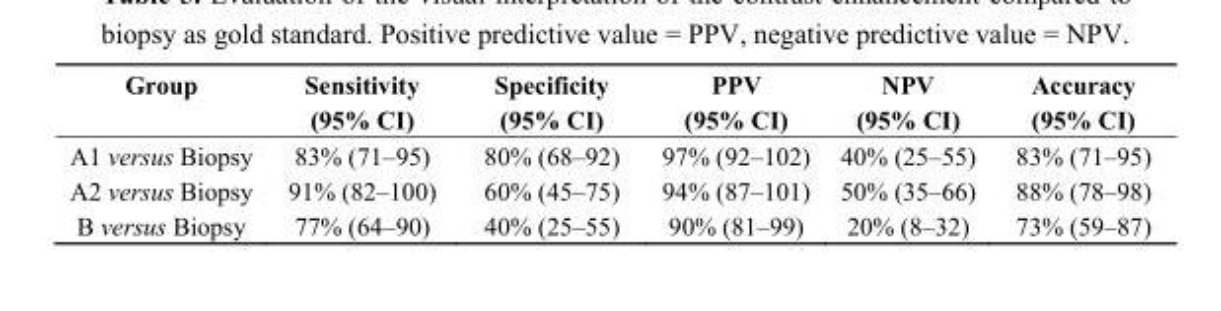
<table><thead><tr><td>Group</td><td>Sensitivity (95% CI)</td><td>Specificity (95% CI)</td><td>PPV (95% CI)</td><td>NPV (95% CI)</td><td>Accuracy (95% CI)</td></tr></thead><tbody><tr><td>A1 versus Biopsy</td><td>83% (71–95)</td><td>80% (68–92)</td><td>97% (92–102)</td><td>40% (25–55)</td><td>83% (71–95)</td></tr><tr><td>A2 versus Biopsy</td><td>91% (82–100)</td><td>60% (45–75)</td><td>94% (87–101)</td><td>50% (35–66)</td><td>88% (78–98)</td></tr><tr><td>B versus Biopsy</td><td>77% (64–90)</td><td>40% (25–55)</td><td>90% (81–99)</td><td>20% (8–32)</td><td>73% (59–87)</td></tr></tbody></table>